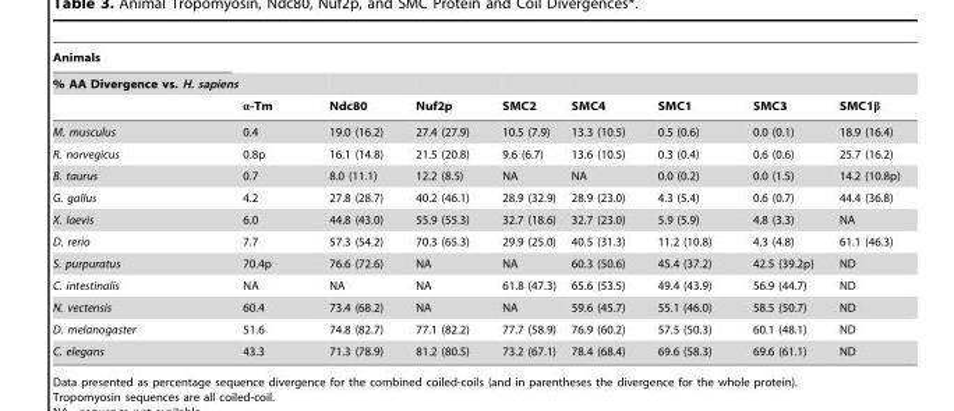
<table><thead><tr><td rowspan="3">Animals % AA Divergence vs. H. sapiens</td><td rowspan="3">α-Tm</td><td rowspan="3">Ndc80</td><td rowspan="3">Nuf2p</td><td rowspan="3">SMC2</td><td rowspan="3">SMC4</td><td rowspan="3">SMC1</td><td rowspan="3">SMC3</td><td rowspan="3">SMC1β</td></tr><tr></tr><tr></tr></thead><tbody><tr><td>M. musculus</td><td>0.4</td><td>19.0 (16.2)</td><td>27.4 (27.9)</td><td>10.5 (7.9)</td><td>13.3 (10.5)</td><td>0.5 (0.6)</td><td>0.0 (0.1)</td><td>18.9 (16.4)</td></tr><tr><td>R. norvegicus</td><td>0.8p</td><td>16.1 (14.8)</td><td>21.5 (20.8)</td><td>9.6 (6.7)</td><td>13.6 (10.5)</td><td>0.3 (0.4)</td><td>0.6 (0.6)</td><td>25.7 (16.2)</td></tr><tr><td>B. taurus</td><td>0.7</td><td>8.0 (11.1)</td><td>12.2 (8.5)</td><td>NA</td><td>NA</td><td>0.0 (0.2)</td><td>0.0 (1.5)</td><td>14.2 (10.8p)</td></tr><tr><td>G. gallus</td><td>4.2</td><td>27.8 (28.7)</td><td>40.2 (46.1)</td><td>28.9 (32.9)</td><td>28.9 (23.0)</td><td>4.3 (5.4)</td><td>0.6 (0.7)</td><td>44.4 (36.8)</td></tr><tr><td>X. laevis</td><td>6.0</td><td>44.8 (43.0)</td><td>55.9 (55.3)</td><td>32.7 (18.6)</td><td>32.7 (23.0)</td><td>5.9 (5.9)</td><td>4.8 (3.3)</td><td>NA</td></tr><tr><td>D. rerio</td><td>7.7</td><td>57.3 (54.2)</td><td>70.3 (65.3)</td><td>29.9 (25.0)</td><td>40.5 (31.3)</td><td>11.2 (10.8)</td><td>4.3 (4.8)</td><td>61.1 (46.3)</td></tr><tr><td>S. purpuratus</td><td>70.4p</td><td>76.6 (72.6)</td><td>NA</td><td>NA</td><td>60.3 (50.6)</td><td>45.4 (37.2)</td><td>42.5 (39.2p)</td><td>ND</td></tr><tr><td>C. intestinalis</td><td>NA</td><td>NA</td><td>NA</td><td>61.8 (47.3)</td><td>65.6 (53.5)</td><td>49.4 (43.9)</td><td>56.9 (44.7)</td><td>ND</td></tr><tr><td>N. vectensis</td><td>60.4</td><td>73.4 (68.2)</td><td>NA</td><td>NA</td><td>59.6 (45.7)</td><td>55.1 (46.0)</td><td>58.5 (50.7)</td><td>ND</td></tr><tr><td>D. melanogaster</td><td>51.6</td><td>74.8 (82.7)</td><td>77.1 (82.2)</td><td>77.7 (58.9)</td><td>76.9 (60.2)</td><td>57.5 (50.3)</td><td>60.1 (48.1)</td><td>ND</td></tr><tr><td>C. elegans</td><td>43.3</td><td>71.3 (78.9)</td><td>81.2 (80.5)</td><td>73.2 (67.1)</td><td>78.4 (68.4)</td><td>69.6 (58.3)</td><td>69.6 (61.1)</td><td>ND</td></tr></tbody></table>